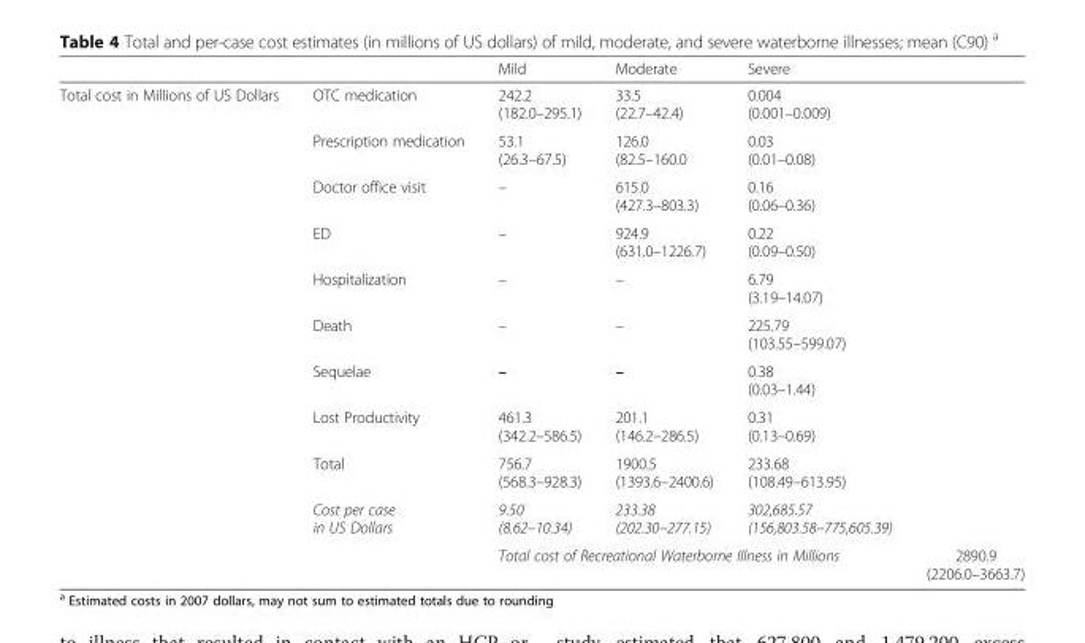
<table><thead><tr><td></td><td></td><td>Mild</td><td>Moderate</td><td>Severe</td><td></td></tr></thead><tbody><tr><td rowspan="11">Total cost in Millions of US Dollars</td><td>OTC medication</td><td>242.2 (182.0–295.1)</td><td>33.5 (22.7–42.4)</td><td>0.004 (0.001–0.009)</td><td></td></tr><tr><td>Prescription medication</td><td>53.1 (26.3–67.5)</td><td>126.0 (82.5–160.0</td><td>0.03 (0.01–0.08)</td><td></td></tr><tr><td>Doctor office visit</td><td>–</td><td>615.0 (427.3–803.3)</td><td>0.16 (0.06–0.36)</td><td></td></tr><tr><td>ED</td><td>–</td><td>924.9 (631.0–1226.7)</td><td>0.22 (0.09–0.50)</td><td></td></tr><tr><td>Hospitalization</td><td>–</td><td>–</td><td>6.79 (3.19–14.07)</td><td></td></tr><tr><td>Death</td><td>–</td><td>–</td><td>225.79 (103.55–599.07)</td><td></td></tr><tr><td>Sequelae</td><td>–</td><td>–</td><td>0.38 (0.03–1.44)</td><td></td></tr><tr><td>Lost Productivity</td><td>461.3 (342.2–586.5)</td><td>201.1 (146.2–286.5)</td><td>0.31 (0.13–0.69)</td><td></td></tr><tr><td>Total</td><td>756.7 (568.3–928.3)</td><td>1900.5 (1393.6–2400.6)</td><td>233.68 (108.49–613.95)</td><td></td></tr><tr><td>Cost per case in US Dollars</td><td>9.50 (8.62–10.34)</td><td>233.38 (202.30–277.15)</td><td>302,685.57 (156,803.58–775,605.39)</td><td></td></tr><tr><td></td><td colspan="3">Total cost of Recreational Waterborne Illness in Millions</td><td>2890.9 (2206.0–3663.7)</td></tr></tbody></table>